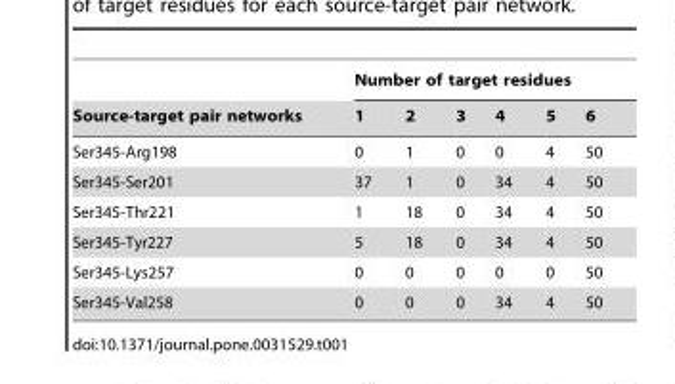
<table><thead><tr><td rowspan="2">Source-target pair networks</td><td colspan="6">Number of target residues</td></tr><tr><td>1</td><td>2</td><td>3</td><td>4</td><td>5</td><td>6</td></tr></thead><tbody><tr><td>Ser345-Arg198</td><td>0</td><td>1</td><td>0</td><td>0</td><td>4</td><td>50</td></tr><tr><td>Ser345-Ser201</td><td>37</td><td>1</td><td>0</td><td>34</td><td>4</td><td>50</td></tr><tr><td>Ser345-Thr221</td><td>1</td><td>18</td><td>0</td><td>34</td><td>4</td><td>50</td></tr><tr><td>Ser345-Tyr227</td><td>5</td><td>18</td><td>0</td><td>34</td><td>4</td><td>50</td></tr><tr><td>Ser345-Lys257</td><td>0</td><td>0</td><td>0</td><td>0</td><td>0</td><td>50</td></tr><tr><td>Ser345-Val258</td><td>0</td><td>0</td><td>0</td><td>34</td><td>4</td><td>50</td></tr></tbody></table>